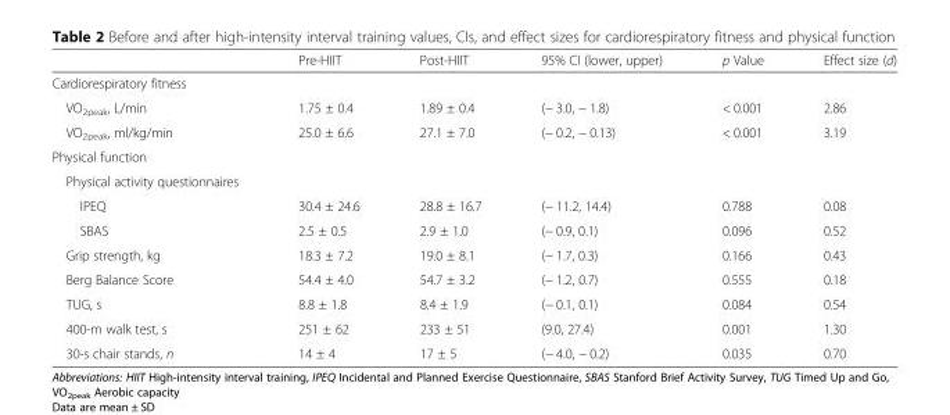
<table><thead><tr><td></td><td>Pre-HIIT</td><td>Post-HIIT</td><td>95% CI (lower, upper)</td><td>p Value</td><td>Effect size (d)</td></tr></thead><tbody><tr><td colspan="6">Cardiorespiratory fitness</td></tr><tr><td>VO<sub>2peak</sub>, L/min</td><td>1.75 ± 0.4</td><td>1.89 ± 0.4</td><td>(− 3.0, − 1.8)</td><td>&lt; 0.001</td><td>2.86</td></tr><tr><td>VO<sub>2peak</sub>, ml/kg/min</td><td>25.0 ± 6.6</td><td>27.1 ± 7.0</td><td>(− 0.2, − 0.13)</td><td>&lt; 0.001</td><td>3.19</td></tr><tr><td colspan="6">Physical function</td></tr><tr><td colspan="6">Physical activity questionnaires</td></tr><tr><td>IPEQ</td><td>30.4 ± 24.6</td><td>28.8 ± 16.7</td><td>(− 11.2, 14.4)</td><td>0.788</td><td>0.08</td></tr><tr><td>SBAS</td><td>2.5 ± 0.5</td><td>2.9 ± 1.0</td><td>(− 0.9, 0.1)</td><td>0.096</td><td>0.52</td></tr><tr><td>Grip strength, kg</td><td>18.3 ± 7.2</td><td>19.0 ± 8.1</td><td>(− 1.7, 0.3)</td><td>0.166</td><td>0.43</td></tr><tr><td>Berg Balance Score</td><td>54.4 ± 4.0</td><td>54.7 ± 3.2</td><td>(− 1.2, 0.7)</td><td>0.555</td><td>0.18</td></tr><tr><td>TUG, s</td><td>8.8 ± 1.8</td><td>8.4 ± 1.9</td><td>(− 0.1, 0.1)</td><td>0.084</td><td>0.54</td></tr><tr><td>400-m walk test, s</td><td>251 ± 62</td><td>233 ± 51</td><td>(9.0, 27.4)</td><td>0.001</td><td>1.30</td></tr><tr><td>30-s chair stands, n</td><td>14 ± 4</td><td>17 ± 5</td><td>(− 4.0, − 0.2)</td><td>0.035</td><td>0.70</td></tr></tbody></table>